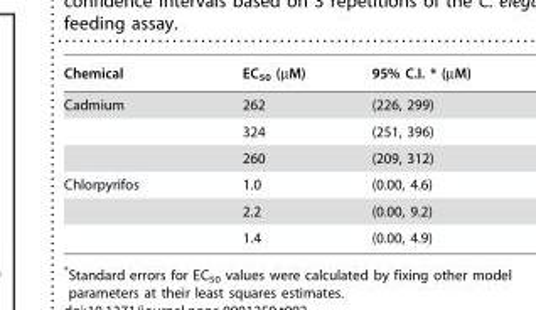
<table><thead><tr><td>Chemical</td><td>EC<sub>50</sub> (µM)</td><td>95% C.I. * (µM)</td></tr></thead><tbody><tr><td rowspan="3">Cadmium</td><td>262</td><td>(226, 299)</td></tr><tr><td>324</td><td>(251, 396)</td></tr><tr><td>260</td><td>(209, 312)</td></tr><tr><td rowspan="3">Chlorpyrifos</td><td>1.0</td><td>(0.00, 4.6)</td></tr><tr><td>2.2</td><td>(0.00, 9.2)</td></tr><tr><td>1.4</td><td>(0.00, 4.9)</td></tr></tbody></table>